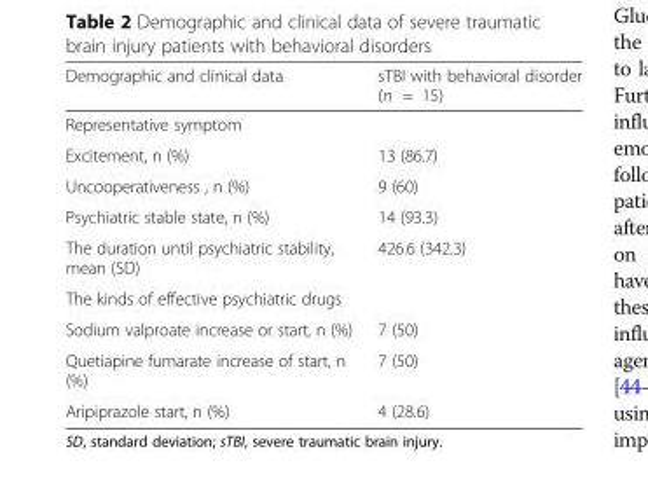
<table><thead><tr><td>Demographic and clinical data</td><td>sTBI with behavioral disorder (n = 15)</td></tr></thead><tbody><tr><td colspan="2">Representative symptom</td></tr><tr><td>Excitement, n (%)</td><td>13 (86.7)</td></tr><tr><td>Uncooperativeness , n (%)</td><td>9 (60)</td></tr><tr><td>Psychiatric stable state, n (%)</td><td>14 (93.3)</td></tr><tr><td>The duration until psychiatric stability, mean (SD)</td><td>426.6 (342.3)</td></tr><tr><td colspan="2">The kinds of effective psychiatric drugs</td></tr><tr><td>Sodium valproate increase or start, n (%)</td><td>7 (50)</td></tr><tr><td>Quetiapine fumarate increase of start, n (%)</td><td>7 (50)</td></tr><tr><td>Aripiprazole start, n (%)</td><td>4 (28.6)</td></tr></tbody></table>